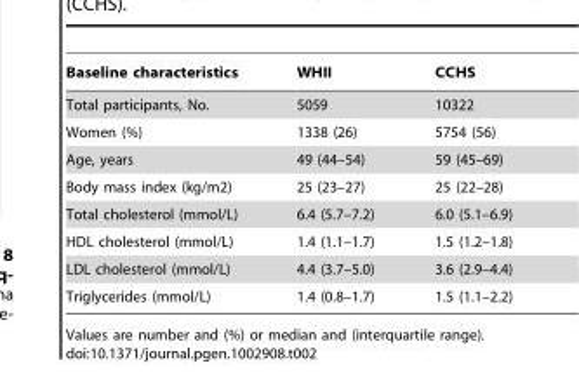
<table><thead><tr><td>Baseline characteristics</td><td>WHII</td><td>CCHS</td></tr></thead><tbody><tr><td>Total participants, No.</td><td>5059</td><td>10322</td></tr><tr><td>Women (%)</td><td>1338 (26)</td><td>5754 (56)</td></tr><tr><td>Age, years</td><td>49 (44–54)</td><td>59 (45–69)</td></tr><tr><td>Body mass index (kg/m2)</td><td>25 (23–27)</td><td>25 (22–28)</td></tr><tr><td>Total cholesterol (mmol/L)</td><td>6.4 (5.7–7.2)</td><td>6.0 (5.1–6.9)</td></tr><tr><td>HDL cholesterol (mmol/L)</td><td>1.4 (1.1–1.7)</td><td>1.5 (1.2–1.8)</td></tr><tr><td>LDL cholesterol (mmol/L)</td><td>4.4 (3.7–5.0)</td><td>3.6 (2.9–4.4)</td></tr><tr><td>Triglycerides (mmol/L)</td><td>1.4 (0.8–1.7)</td><td>1.5 (1.1–2.2)</td></tr></tbody></table>